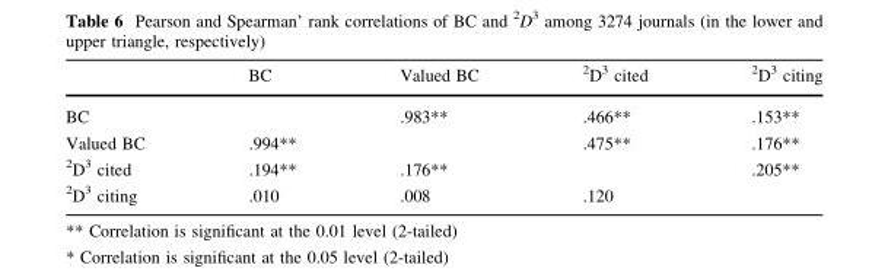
<table><thead><tr><td></td><td>BC</td><td>Valued BC</td><td><sup>2</sup>D<sup>3</sup> cited</td><td><sup>2</sup>D<sup>3</sup> citing</td></tr></thead><tbody><tr><td>BC</td><td></td><td>.983**</td><td>.466**</td><td>.153**</td></tr><tr><td>Valued BC</td><td>.994**</td><td></td><td>.475**</td><td>.176**</td></tr><tr><td><sup>2</sup>D<sup>3</sup> cited</td><td>.194**</td><td>.176**</td><td></td><td>.205**</td></tr><tr><td><sup>2</sup>D<sup>3</sup> citing</td><td>.010</td><td>.008</td><td>.120</td><td></td></tr></tbody></table>